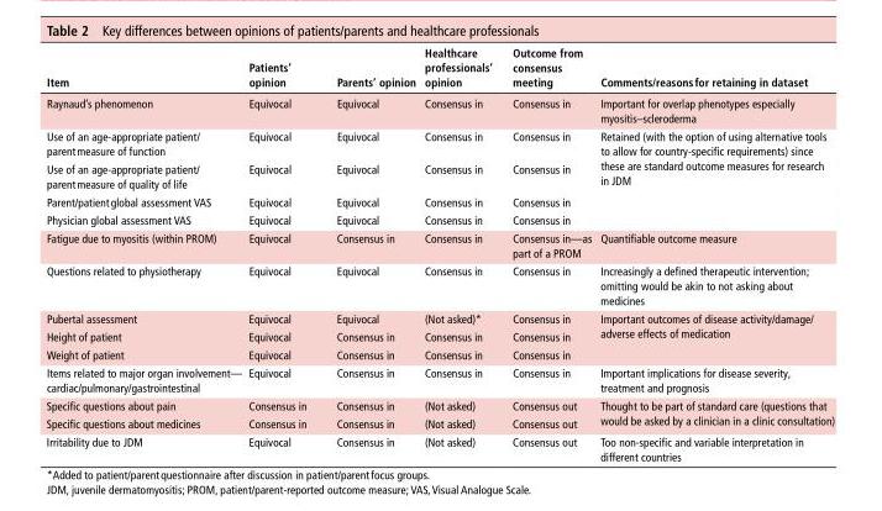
<table><thead><tr><td>Item</td><td>Patients’ opinion</td><td>Parents’ opinion</td><td>healthcare professionals’ opinion</td><td>Outcome from consensus meeting</td><td>Comments/reasons for retaining in dataset</td></tr></thead><tbody><tr><td>Raynaud’s phenomenon</td><td>Equivocal</td><td>Equivocal</td><td>Consensus in</td><td>Consensus in</td><td>Important for overlap phenotypes especially myositis–scleroderma</td></tr><tr><td>Use of an age-appropriate patient/ parent measure of function</td><td>Equivocal</td><td>Equivocal</td><td>Consensus in</td><td>Consensus in</td><td rowspan="4">Retained (with the option of using alternative tools to allow for country-specific requirements) since these are standard outcome measures for research in JDM</td></tr><tr><td>Use of an age-appropriate patient/ parent measure of quality of life</td><td>Equivocal</td><td>Equivocal</td><td>Consensus in</td><td>Consensus in</td></tr><tr><td>Parent/patient global assessment VAS</td><td>Equivocal</td><td>Equivocal</td><td>Consensus in</td><td>Consensus in</td></tr><tr><td>Physician global assessment VAS</td><td>Equivocal</td><td>Equivocal</td><td>Consensus in</td><td>Consensus in</td></tr><tr><td>Fatigue due to myositis (within PROM)</td><td>Equivocal</td><td>Consensus in</td><td>Consensus in</td><td>Consensus in—as part of a PROM</td><td>Quantifiable outcome measure</td></tr><tr><td>Questions related to physiotherapy</td><td>Equivocal</td><td>Equivocal</td><td>Consensus in</td><td>Consensus in</td><td>Increasingly a defined therapeutic intervention; omitting would be akin to not asking about medicines</td></tr><tr><td>Pubertal assessment</td><td>Equivocal</td><td>Equivocal</td><td>(Not asked)*</td><td>Consensus in</td><td rowspan="3">Important outcomes of disease activity/damage/ adverse effects of medication</td></tr><tr><td>Height of patient</td><td>Equivocal</td><td>Consensus in</td><td>Consensus in</td><td>Consensus in</td></tr><tr><td>Weight of patient</td><td>Equivocal</td><td>Consensus in</td><td>Consensus in</td><td>Consensus in</td></tr><tr><td>Items related to major organ involvement— cardiac/pulmonary/gastrointestinal</td><td>Equivocal</td><td>Consensus in</td><td>Consensus in</td><td>Consensus in</td><td>Important implications for disease severity, treatment and prognosis</td></tr><tr><td>Specific questions about pain</td><td>Consensus in</td><td>Consensus in</td><td>(Not asked)</td><td>Consensus out</td><td rowspan="2">Thought to be part of standard care (questions that would be asked by a clinician in a clinic consultation)</td></tr><tr><td>Specific questions about medicines</td><td>Consensus in</td><td>Consensus in</td><td>(Not asked)</td><td>Consensus out</td></tr><tr><td>Irritability due to JDM</td><td>Equivocal</td><td>Consensus in</td><td>(Not asked)</td><td>Consensus out</td><td>Too non-specific and variable interpretation in different countries</td></tr></tbody></table>